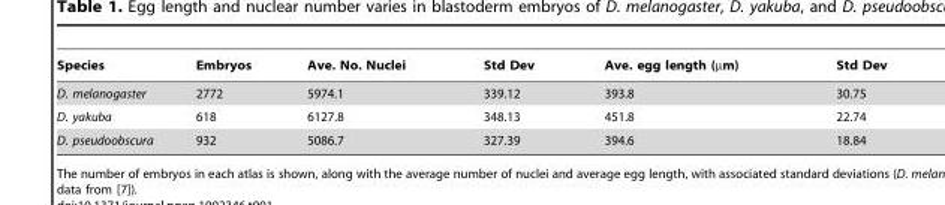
<table><thead><tr><td>Species</td><td>Embryos</td><td>Ave. No. Nuclei</td><td>Std Dev</td><td>Ave. egg length (µm)</td><td>Std Dev</td></tr></thead><tbody><tr><td>D. melanogaster</td><td>2772</td><td>5974.1</td><td>339.12</td><td>393.8</td><td>30.75</td></tr><tr><td>D. yakuba</td><td>618</td><td>6127.8</td><td>348.13</td><td>451.8</td><td>22.74</td></tr><tr><td>D. pseudoobscura</td><td>932</td><td>5086.7</td><td>327.39</td><td>394.6</td><td>18.84</td></tr></tbody></table>